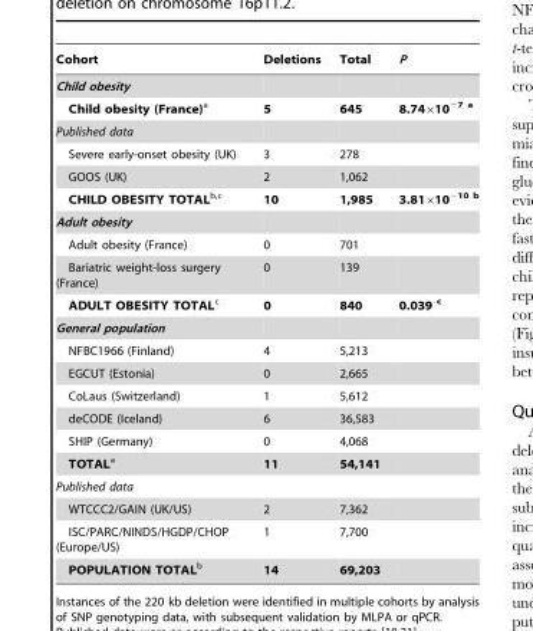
<table><thead><tr><td>Cohort</td><td>Deletions</td><td>Total</td><td>P</td></tr></thead><tbody><tr><td colspan="4">Child obesity</td></tr><tr><td>Child obesity (France)<sup>a</sup></td><td>5</td><td>645</td><td>8.74×10<sup>−7 a</sup></td></tr><tr><td colspan="4">Published data</td></tr><tr><td>Severe early-onset obesity (UK)</td><td>3</td><td>278</td><td></td></tr><tr><td>GOOS (UK)</td><td>2</td><td>1,062</td><td></td></tr><tr><td>CHILD OBESITY TOTAL<sup>b,c</sup></td><td>10</td><td>1,985</td><td>3.81×10<sup>−10 b</sup></td></tr><tr><td colspan="4">Adult obesity</td></tr><tr><td>Adult obesity (France)</td><td>0</td><td>701</td><td></td></tr><tr><td>Bariatric weight-loss surgery (France)</td><td>0</td><td>139</td><td></td></tr><tr><td>ADULT OBESITY TOTAL<sup>c</sup></td><td>0</td><td>840</td><td>0.039 <sup>c</sup></td></tr><tr><td colspan="4">General population</td></tr><tr><td>NFBC1966 (Finland)</td><td>4</td><td>5,213</td><td></td></tr><tr><td>EGCUT (Estonia)</td><td>0</td><td>2,665</td><td></td></tr><tr><td>CoLaus (Switzerland)</td><td>1</td><td>5,612</td><td></td></tr><tr><td>deCODE (Iceland)</td><td>6</td><td>36,583</td><td></td></tr><tr><td>SHIP (Germany)</td><td>0</td><td>4,068</td><td></td></tr><tr><td>TOTAL<sup>a</sup></td><td>11</td><td>54,141</td><td></td></tr><tr><td colspan="4">Published data</td></tr><tr><td>WTCCC2/GAIN (UK/US)</td><td>2</td><td>7,362</td><td></td></tr><tr><td>ISC/PARC/NINDS/HGDP/CHOP (Europe/US)</td><td>1</td><td>7,700</td><td></td></tr><tr><td>POPULATION TOTAL<sup>b</sup></td><td>14</td><td>69,203</td><td></td></tr></tbody></table>